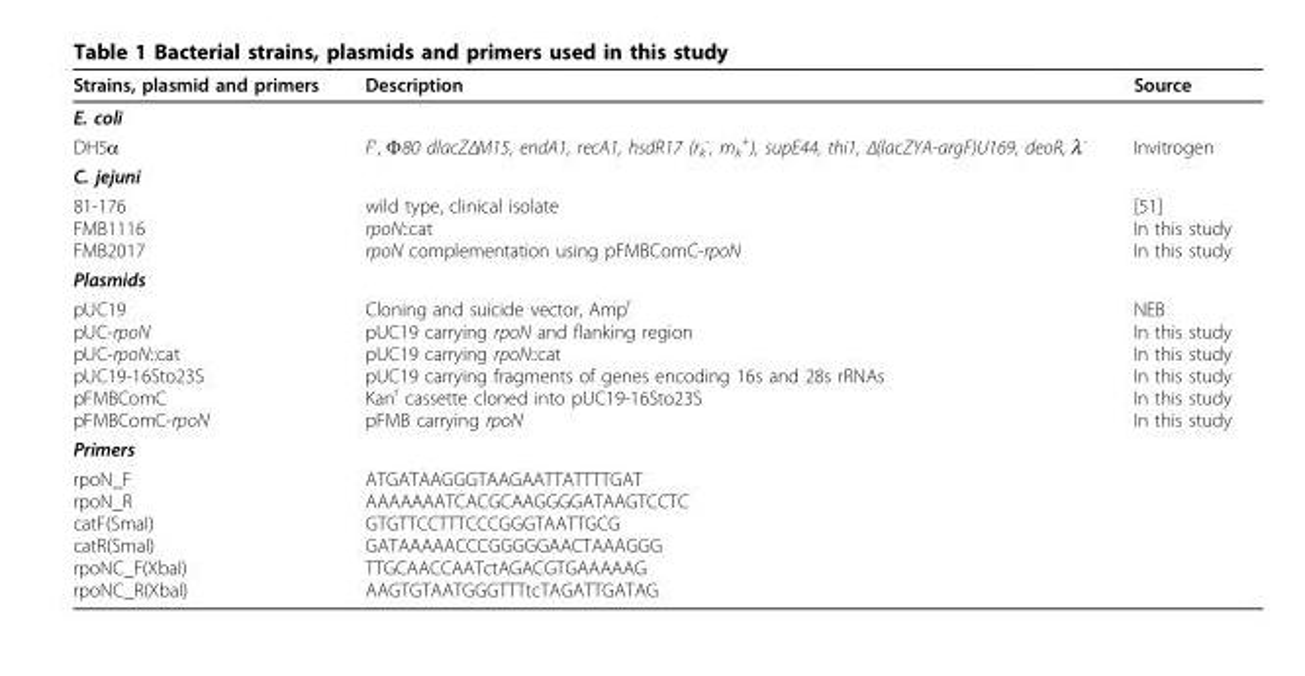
<table><thead><tr><td>Strains, plasmid and primers</td><td>Description</td><td>Source</td></tr></thead><tbody><tr><td colspan="3">E. coli</td></tr><tr><td>DH5α</td><td>F’, Φ80 dlacZΔM15, endA1, recA1, hsdR17 (r<sub>k</sub> <sup>-</sup>, m<sub>k</sub> <sup>+</sup>), supE44, thi1, Δ(lacZYA-argF)U169, deoR, λ<sup>-</sup></td><td>Invitrogen</td></tr><tr><td colspan="3">C. jejuni</td></tr><tr><td>81-176 FMB1116 FMB2017</td><td>wild type, clinical isolate rpoN::cat rpoN complementation using pFMBComC-rpoN</td><td>[51] In this study In this study</td></tr><tr><td colspan="3">Plasmids</td></tr><tr><td>pUC19 pUC-rpoN pUC-rpoN::cat pUC19-16Sto23S pFMBComC pFMBComC-rpoN</td><td>Cloning and suicide vector, Amp<sup>r</sup> pUC19 carrying rpoN and flanking region pUC19 carrying rpoN::cat pUC19 carrying fragments of genes encoding 16s and 28s rRNAs Kan<sup>r</sup> cassette cloned into pUC19-16Sto23S pFMB carrying rpoN</td><td>NEB In this study In this study In this study In this study In this study</td></tr><tr><td colspan="3">Primers</td></tr><tr><td>rpoN_F rpoN_R catF(SmaI) catR(SmaI) rpoNC_F(XbaI) rpoNC_R(XbaI)</td><td colspan="2">ATGATAAGGGTAAGAATTATTTTGAT AAAAAAATCACGCAAGGGGATAAGTCCTC GTGTTCCTTTCCCGGGTAATTGCG GATAAAAACCCGGGGGAACTAAAGGG TTGCAACCAATctAGACGTGAAAAAG AAGTGTAATGGGTTTtcTAGATTGATAG</td></tr></tbody></table>